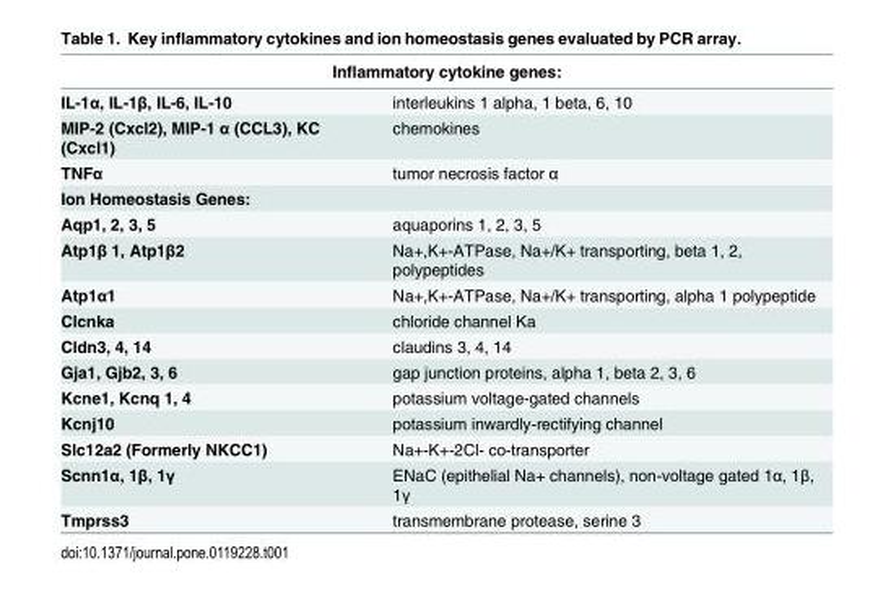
<table><thead><tr><td colspan="2">Inflammatory cytokine genes:</td></tr><tr><td>IL-1α, IL-1β, IL-6, IL-10</td><td>interleukins 1 alpha, 1 beta, 6, 10</td></tr></thead><tbody><tr><td>MIP-2 (Cxcl2), MIP-1 α (CCL3), KC (Cxcl1)</td><td>chemokines</td></tr><tr><td>TNFα</td><td>tumor necrosis factor α</td></tr><tr><td colspan="2">Ion Homeostasis Genes:</td></tr><tr><td>Aqp1, 2, 3, 5</td><td>aquaporins 1, 2, 3, 5</td></tr><tr><td>Atp1β 1, Atp1β2</td><td>Na+,K+-ATPase, Na+/K+ transporting, beta 1, 2, polypeptides</td></tr><tr><td>Atp1α1</td><td>Na+,K+-ATPase, Na+/K+ transporting, alpha 1 polypeptide</td></tr><tr><td>Clcnka</td><td>chloride channel Ka</td></tr><tr><td>Cldn3, 4, 14</td><td>claudins 3, 4, 14</td></tr><tr><td>Gja1, Gjb2, 3, 6</td><td>gap junction proteins, alpha 1, beta 2, 3, 6</td></tr><tr><td>Kcne1, Kcnq 1, 4</td><td>potassium voltage-gated channels</td></tr><tr><td>Kcnj10</td><td>potassium inwardly-rectifying channel</td></tr><tr><td>Slc12a2 (Formerly NKCC1)</td><td>Na+-K+-2Cl- co-transporter</td></tr><tr><td>Scnn1α, 1β, 1γ</td><td>ENaC (epithelial Na+ channels), non-voltage gated 1α, 1β, 1γ</td></tr><tr><td>Tmprss3</td><td>transmembrane protease, serine 3</td></tr></tbody></table>